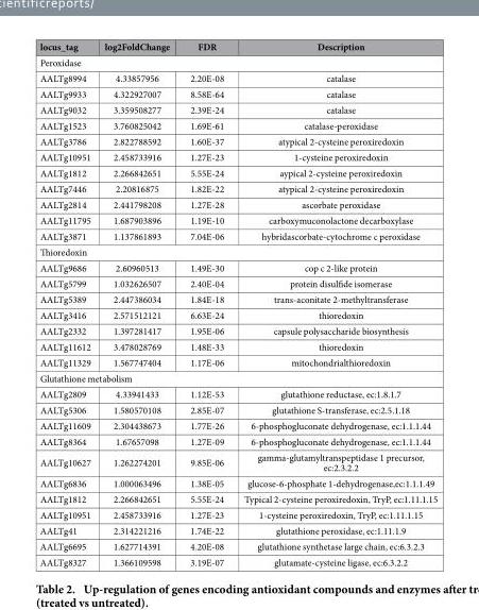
<table><thead><tr><td>locus_tag</td><td>log2FoldChange</td><td>FDR</td><td>Description</td></tr></thead><tbody><tr><td colspan="4">Peroxidase</td></tr><tr><td>AALTg8994</td><td>4.33857956</td><td>2.20E-08</td><td>catalase</td></tr><tr><td>AALTg9933</td><td>4.322927007</td><td>8.58E-64</td><td>catalase</td></tr><tr><td>AALTg9032</td><td>3.359508277</td><td>2.39E-24</td><td>catalase</td></tr><tr><td>AALTg1523</td><td>3.760825042</td><td>1.69E-61</td><td>catalase-peroxidase</td></tr><tr><td>AALTg3786</td><td>2.822788592</td><td>1.60E-37</td><td>atypical 2-cysteine peroxiredoxin</td></tr><tr><td>AALTg10951</td><td>2.458733916</td><td>1.27E-23</td><td>1-cysteine peroxiredoxin</td></tr><tr><td>AALTg1812</td><td>2.266842651</td><td>5.55E-24</td><td>aypical 2-cysteine peroxiredoxin</td></tr><tr><td>AALTg7446</td><td>2.20816875</td><td>1.82E-22</td><td>atypical 2-cysteine peroxiredoxin</td></tr><tr><td>AALTg2814</td><td>2.441798208</td><td>1.27E-28</td><td>ascorbate peroxidase</td></tr><tr><td>AALTg11795</td><td>1.687903896</td><td>1.19E-10</td><td>carboxymuconolactone decarboxylase</td></tr><tr><td>AALTg3871</td><td>1.137861893</td><td>7.04E-06</td><td>hybridascorbate-cytochrome c peroxidase</td></tr><tr><td colspan="4">Thioredoxin</td></tr><tr><td>AALTg9686</td><td>2.60960513</td><td>1.49E-30</td><td>cop c 2-like protein</td></tr><tr><td>AALTg5799</td><td>1.032626507</td><td>2.40E-04</td><td>protein disulfide isomerase</td></tr><tr><td>AALTg5389</td><td>2.447386034</td><td>1.84E-18</td><td>trans-aconitate 2-methyltransferase</td></tr><tr><td>AALTg3416</td><td>2.571512121</td><td>6.63E-24</td><td>thioredoxin</td></tr><tr><td>AALTg2332</td><td>1.397281417</td><td>1.95E-06</td><td>capsule polysaccharide biosynthesis</td></tr><tr><td>AALTg11612</td><td>3.478028769</td><td>1.48E-33</td><td>thioredoxin</td></tr><tr><td>AALTg11329</td><td>1.567747404</td><td>1.17E-06</td><td>mitochondrialthioredoxin</td></tr><tr><td colspan="4">Glutathione metabolism</td></tr><tr><td>AALTg2809</td><td>4.33941433</td><td>1.12E-53</td><td>glutathione reductase, ec:1.8.1.7</td></tr><tr><td>AALTg5306</td><td>1.580570108</td><td>2.85E-07</td><td>glutathione S-transferase, ec:2.5.1.18</td></tr><tr><td>AALTg11609</td><td>2.304438673</td><td>1.77E-26</td><td>6-phosphogluconate dehydrogenase, ec:1.1.1.44</td></tr><tr><td>AALTg8364</td><td>1.67657098</td><td>1.27E-09</td><td>6-phosphogluconate dehydrogenase, ec:1.1.1.44</td></tr><tr><td>AALTg10627</td><td>1.262274201</td><td>9.85E-06</td><td>gamma-glutamyltranspeptidase 1 precursor, ec:2.3.2.2</td></tr><tr><td>AALTg6836</td><td>1.000063496</td><td>1.38E-05</td><td>glucose-6-phosphate 1-dehydrogenase,ec:1.1.1.49</td></tr><tr><td>AALTg1812</td><td>2.266842651</td><td>5.55E-24</td><td>Typical 2-cysteine peroxiredoxin, TryP, ec:1.11.1.15</td></tr><tr><td>AALTg10951</td><td>2.458733916</td><td>1.27E-23</td><td>1-cysteine peroxiredoxin, TryP, ec:1.11.1.15</td></tr><tr><td>AALTg41</td><td>2.314221216</td><td>1.74E-22</td><td>glutathione peroxidase, ec:1.11.1.9</td></tr><tr><td>AALTg6695</td><td>1.627714391</td><td>4.20E-08</td><td>glutathione synthetase large chain, ec:6.3.2.3</td></tr><tr><td>AALTg8327</td><td>1.366109598</td><td>3.19E-07</td><td>glutamate-cysteine ligase, ec:6.3.2.2</td></tr></tbody></table>